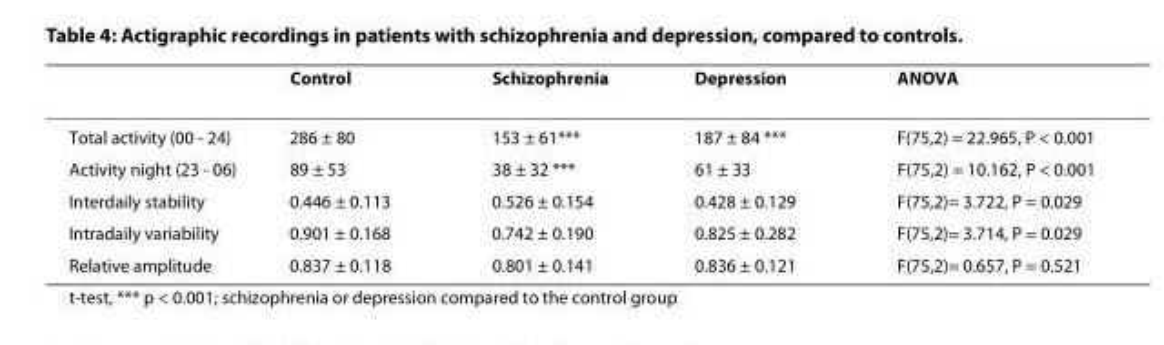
<table><thead><tr><td></td><td>Control</td><td>Schizophrenia</td><td>Depression</td><td>ANOVA</td></tr></thead><tbody><tr><td>Total activity (00 - 24)</td><td>286 ± 80</td><td>153 ± 61***</td><td>187 ± 84 ***</td><td>F(75,2) = 22.965, P &lt; 0.001</td></tr><tr><td>Activity night (23 - 06)</td><td>89 ± 53</td><td>38 ± 32 ***</td><td>61 ± 33</td><td>F(75,2) = 10.162, P &lt; 0.001</td></tr><tr><td>Interdaily stability</td><td>0.446 ± 0.113</td><td>0.526 ± 0.154</td><td>0.428 ± 0.129</td><td>F(75,2)= 3.722, P = 0.029</td></tr><tr><td>Intradaily variability</td><td>0.901 ± 0.168</td><td>0.742 ± 0.190</td><td>0.825 ± 0.282</td><td>F(75,2)= 3.714, P = 0.029</td></tr><tr><td>Relative amplitude</td><td>0.837 ± 0.118</td><td>0.801 ± 0.141</td><td>0.836 ± 0.121</td><td>F(75,2)= 0.657, P = 0.521</td></tr></tbody></table>